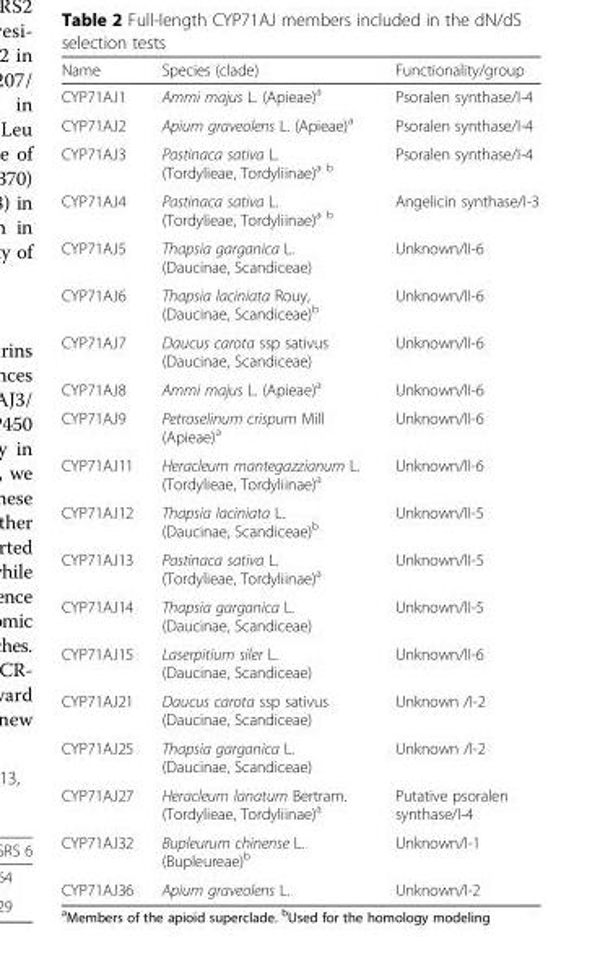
<table><thead><tr><td>Name</td><td>Species (clade)</td><td>Functionality/group</td></tr></thead><tbody><tr><td>CYP71AJ1</td><td>Ammi majus L. (Apieae)<sup>a</sup></td><td>Psoralen synthase/I-4</td></tr><tr><td>CYP71AJ2</td><td>Apium graveolens L. (Apieae)<sup>a</sup></td><td>Psoralen synthase/I-4</td></tr><tr><td>CYP71AJ3</td><td>Pastinaca sativa L. (Tordylieae, Tordyliinae)<sup>a b</sup></td><td>Psoralen synthase/I-4</td></tr><tr><td>CYP71AJ4</td><td>Pastinaca sativa L. (Tordylieae, Tordyliinae)<sup>a b</sup></td><td>Angelicin synthase/I-3</td></tr><tr><td>CYP71AJ5</td><td>Thapsia garganica L. (Daucinae, Scandiceae)</td><td>Unknown/II-6</td></tr><tr><td>CYP71AJ6</td><td>Thapsia laciniata Rouy, (Daucinae, Scandiceae)<sup>b</sup></td><td>Unknown/II-6</td></tr><tr><td>CYP71AJ7</td><td>Daucus carota ssp sativus (Daucinae, Scandiceae)</td><td>Unknown/II-6</td></tr><tr><td>CYP71AJ8</td><td>Ammi majus L. (Apieae)<sup>a</sup></td><td>Unknown/II-6</td></tr><tr><td>CYP71AJ9</td><td>Petroselinum crispum Mill (Apieae)<sup>a</sup></td><td>Unknown/II-6</td></tr><tr><td>CYP71AJ11</td><td>Heracleum mantegazzianum L. (Tordylieae, Tordyliinae)<sup>a</sup></td><td>Unknown/II-6</td></tr><tr><td>CYP71AJ12</td><td>Thapsia laciniata L. (Daucinae, Scandiceae)<sup>b</sup></td><td>Unknown/II-5</td></tr><tr><td>CYP71AJ13</td><td>Pastinaca sativa L. (Tordylieae, Tordyliinae)<sup>a</sup></td><td>Unknown/II-5</td></tr><tr><td>CYP71AJ14</td><td>Thapsia garganica L. (Daucinae, Scandiceae)</td><td>Unknown/II-5</td></tr><tr><td>CYP71AJ15</td><td>Laserpitium siler L. (Daucinae, Scandiceae)</td><td>Unknown/II-6</td></tr><tr><td>CYP71AJ21</td><td>Daucus carota ssp sativus (Daucinae, Scandiceae)</td><td>Unknown /I-2</td></tr><tr><td>CYP71AJ25</td><td>Thapsia garganica L. (Daucinae, Scandiceae)</td><td>Unknown /I-2</td></tr><tr><td>CYP71AJ27</td><td>Heracleum lanatum Bertram. (Tordylieae, Tordyliinae)<sup>a</sup></td><td>Putative psoralen synthase/I-4</td></tr><tr><td>CYP71AJ32</td><td>Bupleurum chinense L. (Bupleureae)<sup>b</sup></td><td>Unknown/I-1</td></tr><tr><td>CYP71AJ36</td><td>Apium graveolens L.</td><td>Unknown/I-2</td></tr></tbody></table>